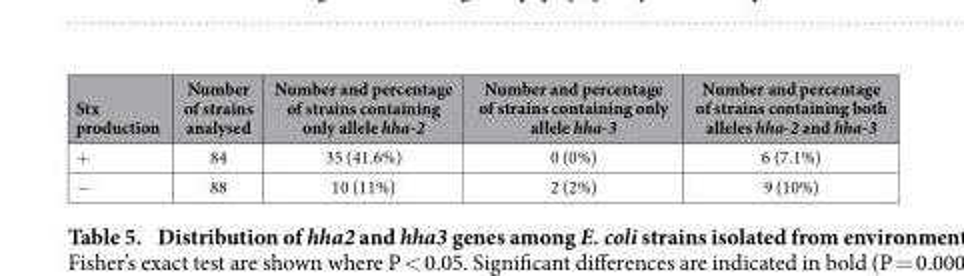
<table><thead><tr><td>Stx production</td><td>Number of strains analysed</td><td>Number and percentage of strains containing only allele hha-2</td><td>Number and percentage of strains containing only allele hha-3</td><td>Number and percentage of strains containing both alleles hha-2 and hha-3</td></tr></thead><tbody><tr><td>+</td><td>84</td><td>35 (41.6%)</td><td>0 (0%)</td><td>6 (7.1%)</td></tr><tr><td>−</td><td>88</td><td>10 (11%)</td><td>2 (2%)</td><td>9 (10%)</td></tr></tbody></table>